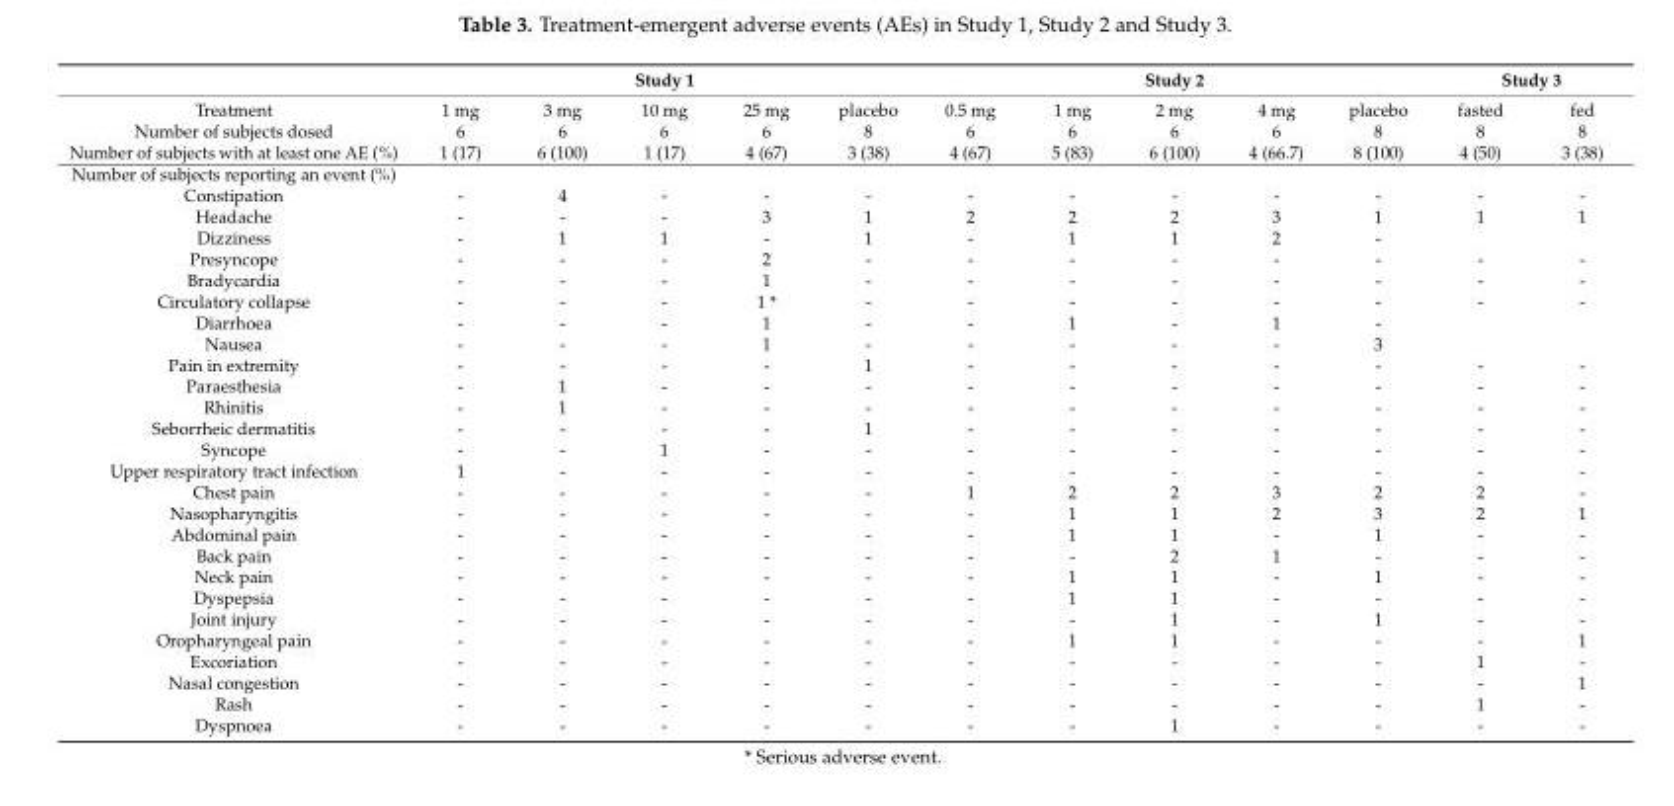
<table><thead><tr><td rowspan="2">Treatment</td><td colspan="5">Study 1</td><td colspan="5">Study 2</td><td colspan="2">Study 3</td></tr><tr><td>1 mg</td><td>3 mg</td><td>10 mg</td><td>25 mg</td><td>placebo</td><td>0.5 mg</td><td>1 mg</td><td>2 mg</td><td>4 mg</td><td>placebo</td><td>fasted</td><td>fed</td></tr></thead><tbody><tr><td>Number of subjects dosed</td><td>6</td><td>6</td><td>6</td><td>6</td><td>8</td><td>6</td><td>6</td><td>6</td><td>6</td><td>8</td><td>8</td><td>8</td></tr><tr><td>Number of subjects with at least one AE (%)</td><td>1 (17)</td><td>6 (100)</td><td>1 (17)</td><td>4 (67)</td><td>3 (38)</td><td>4 (67)</td><td>5 (83)</td><td>6 (100)</td><td>4 (66.7)</td><td>8 (100)</td><td>4 (50)</td><td>3 (38)</td></tr><tr><td colspan="13">Number of subjects reporting an event (%)</td></tr><tr><td>Constipation</td><td>-</td><td>4</td><td>-</td><td>-</td><td>-</td><td>-</td><td>-</td><td>-</td><td>-</td><td>-</td><td>-</td><td>-</td></tr><tr><td>Headache</td><td>-</td><td>-</td><td>-</td><td>3</td><td>1</td><td>2</td><td>2</td><td>2</td><td>3</td><td>1</td><td>1</td><td>1</td></tr><tr><td>Dizziness</td><td>-</td><td>1</td><td>1</td><td>-</td><td>1</td><td>-</td><td>1</td><td>1</td><td>2</td><td>-</td><td></td><td></td></tr><tr><td>Presyncope</td><td>-</td><td>-</td><td>-</td><td>2</td><td>-</td><td>-</td><td>-</td><td>-</td><td>-</td><td>-</td><td>-</td><td>-</td></tr><tr><td>Bradycardia</td><td>-</td><td>-</td><td>-</td><td>1</td><td>-</td><td>-</td><td>-</td><td>-</td><td>-</td><td>-</td><td>-</td><td>-</td></tr><tr><td>Circulatory collapse</td><td>-</td><td>-</td><td>-</td><td>1 *</td><td>-</td><td>-</td><td>-</td><td>-</td><td>-</td><td>-</td><td>-</td><td>-</td></tr><tr><td>Diarrhoea</td><td>-</td><td>-</td><td>-</td><td>1</td><td>-</td><td>-</td><td>1</td><td>-</td><td>1</td><td>-</td><td></td><td></td></tr><tr><td>Nausea</td><td>-</td><td>-</td><td>-</td><td>1</td><td>-</td><td>-</td><td>-</td><td>-</td><td>-</td><td>3</td><td></td><td></td></tr><tr><td>Pain in extremity</td><td>-</td><td>-</td><td>-</td><td>-</td><td>1</td><td>-</td><td>-</td><td>-</td><td>-</td><td>-</td><td>-</td><td>-</td></tr><tr><td>Paraesthesia</td><td>-</td><td>1</td><td>-</td><td>-</td><td>-</td><td>-</td><td>-</td><td>-</td><td>-</td><td>-</td><td>-</td><td>-</td></tr><tr><td>Rhinitis</td><td>-</td><td>1</td><td>-</td><td>-</td><td>-</td><td>-</td><td>-</td><td>-</td><td>-</td><td>-</td><td>-</td><td>-</td></tr><tr><td>Seborrheic dermatitis</td><td>-</td><td>-</td><td>-</td><td>-</td><td>1</td><td>-</td><td>-</td><td>-</td><td>-</td><td>-</td><td>-</td><td>-</td></tr><tr><td>Syncope</td><td>-</td><td>-</td><td>1</td><td>-</td><td>-</td><td>-</td><td>-</td><td>-</td><td>-</td><td>-</td><td>-</td><td>-</td></tr><tr><td>Upper respiratory tract infection</td><td>1</td><td>-</td><td>-</td><td>-</td><td>-</td><td>-</td><td>-</td><td>-</td><td>-</td><td>-</td><td>-</td><td>-</td></tr><tr><td>Chest pain</td><td>-</td><td>-</td><td>-</td><td>-</td><td>-</td><td>1</td><td>2</td><td>2</td><td>3</td><td>2</td><td>2</td><td>-</td></tr><tr><td>Nasopharyngitis</td><td>-</td><td>-</td><td>-</td><td>-</td><td>-</td><td>-</td><td>1</td><td>1</td><td>2</td><td>3</td><td>2</td><td>1</td></tr><tr><td>Abdominal pain</td><td>-</td><td>-</td><td>-</td><td>-</td><td>-</td><td>-</td><td>1</td><td>1</td><td>-</td><td>1</td><td>-</td><td>-</td></tr><tr><td>Back pain</td><td>-</td><td>-</td><td>-</td><td>-</td><td>-</td><td>-</td><td>-</td><td>2</td><td>1</td><td>-</td><td>-</td><td>-</td></tr><tr><td>Neck pain</td><td>-</td><td>-</td><td>-</td><td>-</td><td>-</td><td>-</td><td>1</td><td>1</td><td>-</td><td>1</td><td>-</td><td>-</td></tr><tr><td>Dyspepsia</td><td>-</td><td>-</td><td>-</td><td>-</td><td>-</td><td>-</td><td>1</td><td>1</td><td>-</td><td>-</td><td>-</td><td>-</td></tr><tr><td>Joint injury</td><td>-</td><td>-</td><td>-</td><td>-</td><td>-</td><td>-</td><td>-</td><td>1</td><td>-</td><td>1</td><td>-</td><td>-</td></tr><tr><td>Oropharyngeal pain</td><td>-</td><td>-</td><td>-</td><td>-</td><td>-</td><td>-</td><td>1</td><td>1</td><td>-</td><td>-</td><td>-</td><td>1</td></tr><tr><td>Excoriation</td><td>-</td><td>-</td><td>-</td><td>-</td><td>-</td><td>-</td><td>-</td><td>-</td><td>-</td><td>-</td><td>1</td><td>-</td></tr><tr><td>Nasal congestion</td><td>-</td><td>-</td><td>-</td><td>-</td><td>-</td><td>-</td><td>-</td><td>-</td><td>-</td><td>-</td><td>-</td><td>1</td></tr><tr><td>Rash</td><td>-</td><td>-</td><td>-</td><td>-</td><td>-</td><td>-</td><td>-</td><td>-</td><td>-</td><td>-</td><td>1</td><td>-</td></tr><tr><td>Dyspnoea</td><td>-</td><td>-</td><td>-</td><td>-</td><td>-</td><td>-</td><td>-</td><td>1</td><td>-</td><td>-</td><td>-</td><td>-</td></tr></tbody></table>